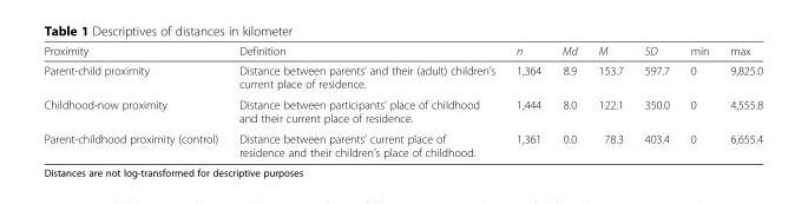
<table><thead><tr><td>Proximity</td><td>Definition</td><td>n</td><td>Md</td><td>M</td><td>SD</td><td>min</td><td>max</td></tr></thead><tbody><tr><td>Parent-child proximity</td><td>Distance between parents’ and their (adult) children’s current place of residence.</td><td>1,364</td><td>8.9</td><td>153.7</td><td>597.7</td><td>0</td><td>9,825.0</td></tr><tr><td>Childhood-now proximity</td><td>Distance between participants’ place of childhood and their current place of residence.</td><td>1,444</td><td>8.0</td><td>122.1</td><td>350.0</td><td>0</td><td>4,555.8</td></tr><tr><td>Parent-childhood proximity (control)</td><td>Distance between parents’ current place of residence and their children’s place of childhood.</td><td>1,361</td><td>0.0</td><td>78.3</td><td>403.4</td><td>0</td><td>6,655.4</td></tr></tbody></table>